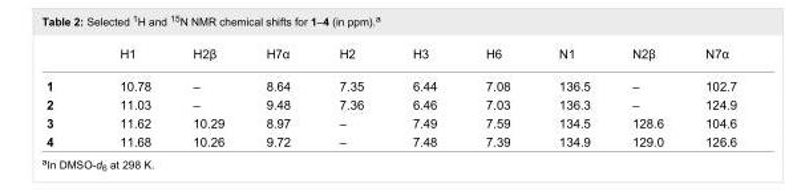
<table><thead><tr><td></td><td>H1</td><td>H2β</td><td>H7α</td><td>H2</td><td>H3</td><td>H6</td><td>N1</td><td>N2β</td><td>N7α</td></tr></thead><tbody><tr><td>1</td><td>10.78</td><td>–</td><td>8.64</td><td>7.35</td><td>6.44</td><td>7.08</td><td>136.5</td><td>–</td><td>102.7</td></tr><tr><td>2</td><td>11.03</td><td>–</td><td>9.48</td><td>7.36</td><td>6.46</td><td>7.03</td><td>136.3</td><td>–</td><td>124.9</td></tr><tr><td>3</td><td>11.62</td><td>10.29</td><td>8.97</td><td>–</td><td>7.49</td><td>7.59</td><td>134.5</td><td>128.6</td><td>104.6</td></tr><tr><td>4</td><td>11.68</td><td>10.26</td><td>9.72</td><td>–</td><td>7.48</td><td>7.39</td><td>134.9</td><td>129.0</td><td>126.6</td></tr></tbody></table>